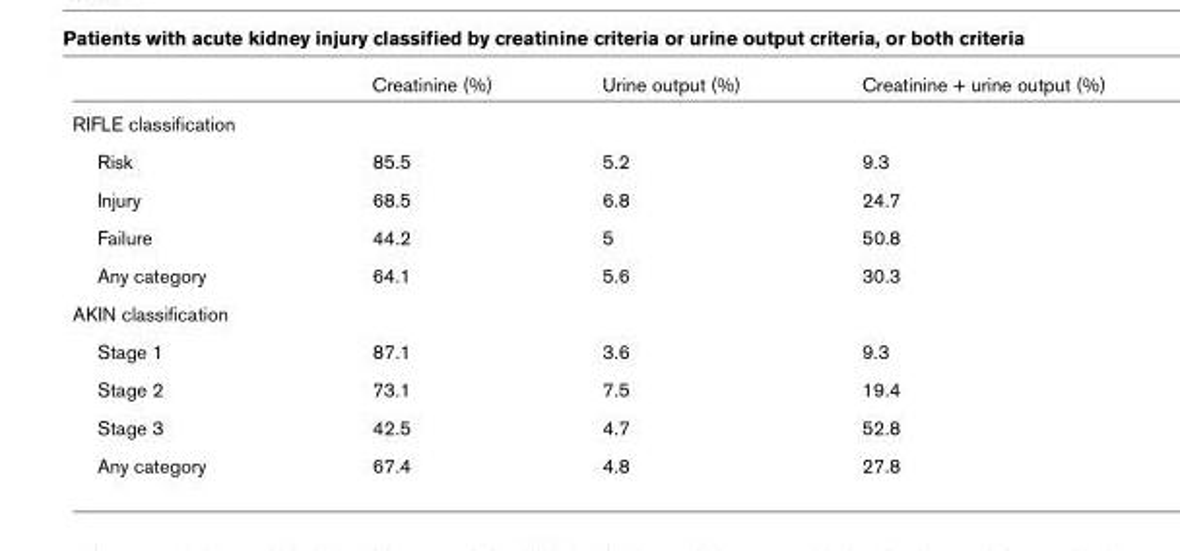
<table><thead><tr><td></td><td>Creatinine (%)</td><td>Urine output (%)</td><td>Creatinine + urine output (%)</td></tr></thead><tbody><tr><td colspan="4">RIFLE classification</td></tr><tr><td>Risk</td><td>85.5</td><td>5.2</td><td>9.3</td></tr><tr><td>Injury</td><td>68.5</td><td>6.8</td><td>24.7</td></tr><tr><td>Failure</td><td>44.2</td><td>5</td><td>50.8</td></tr><tr><td>Any category</td><td>64.1</td><td>5.6</td><td>30.3</td></tr><tr><td colspan="4">AKIN classification</td></tr><tr><td>Stage 1</td><td>87.1</td><td>3.6</td><td>9.3</td></tr><tr><td>Stage 2</td><td>73.1</td><td>7.5</td><td>19.4</td></tr><tr><td>Stage 3</td><td>42.5</td><td>4.7</td><td>52.8</td></tr><tr><td>Any category</td><td>67.4</td><td>4.8</td><td>27.8</td></tr></tbody></table>